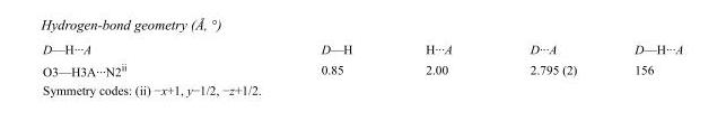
<table><tbody><tr><td>D—H···A</td><td>D—H</td><td>H···A</td><td>D···A</td><td>D—H···A</td></tr><tr><td>O3—H3A···N2<sup>ii</sup></td><td>0.85</td><td>2.00</td><td>2.795 (2)</td><td>156</td></tr></tbody></table>